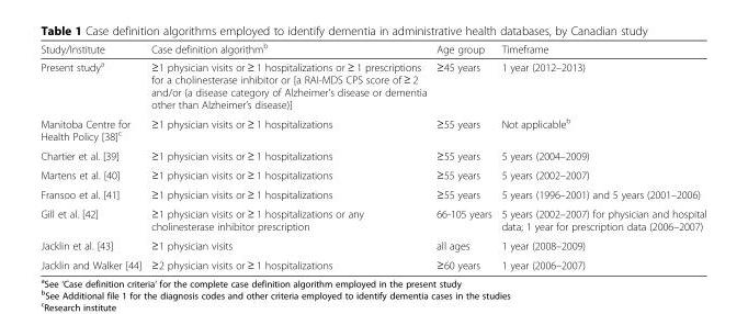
<table><thead><tr><td>Study/Institute</td><td>Case definition algorithm<sup>b</sup></td><td>Age group</td><td>Timeframe</td></tr></thead><tbody><tr><td>Present study<sup>a</sup></td><td>≥1 physician visits or ≥ 1 hospitalizations or ≥ 1 prescriptions for a cholinesterase inhibitor or [a RAI-MDS CPS score of ≥ 2 and/or (a disease category of Alzheimer’s disease or dementia other than Alzheimer’s disease)]</td><td>≥45 years</td><td>1 year (2012–2013)</td></tr><tr><td>Manitoba Centre for Health Policy [38]<sup>c</sup></td><td>≥1 physician visits or ≥ 1 hospitalizations</td><td>≥55 years</td><td>Not applicable<sup>b</sup></td></tr><tr><td>Chartier et al. [39]</td><td>≥1 physician visits or ≥ 1 hospitalizations</td><td>≥55 years</td><td>5 years (2004–2009)</td></tr><tr><td>Martens et al. [40]</td><td>≥1 physician visits or ≥ 1 hospitalizations</td><td>≥55 years</td><td>5 years (2002–2007)</td></tr><tr><td>Fransoo et al. [41]</td><td>≥1 physician visits or ≥ 1 hospitalizations</td><td>≥55 years</td><td>5 years (1996–2001) and 5 years (2001–2006)</td></tr><tr><td>Gill et al. [42]</td><td>≥1 physician visits or ≥ 1 hospitalizations or any cholinesterase inhibitor prescription</td><td>66-105 years</td><td>5 years (2002–2007) for physician and hospital data; 1 year for prescription data (2006–2007)</td></tr><tr><td>Jacklin et al. [43]</td><td>≥1 physician visits</td><td>all ages</td><td>1 year (2008–2009)</td></tr><tr><td>Jacklin and Walker [44]</td><td>≥2 physician visits or ≥ 1 hospitalizations</td><td>≥60 years</td><td>1 year (2006–2007)</td></tr></tbody></table>